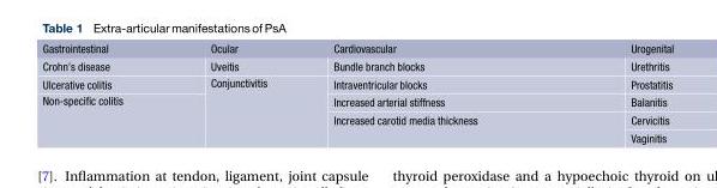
<table><thead><tr><td>Gastrointestinal</td><td>Ocular</td><td>Cardiovascular</td><td>Urogenital</td></tr></thead><tbody><tr><td>Crohn’s disease</td><td>Uveitis</td><td>Bundle branch blocks</td><td>Urethritis</td></tr><tr><td>Ulcerative colitis</td><td rowspan="4">Conjunctivitis</td><td>Intraventricular blocks</td><td>Prostatitis</td></tr><tr><td rowspan="3">Non-specific colitis</td><td>Increased arterial stiffness</td><td>Balanitis</td></tr><tr><td rowspan="2">Increased carotid media thickness</td><td>Cervicitis</td></tr><tr><td>Vaginitis</td></tr></tbody></table>